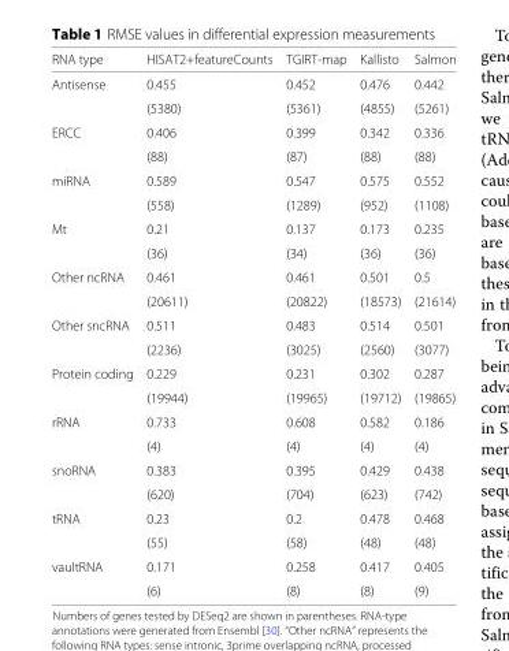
<table><thead><tr><td>RNA type</td><td>HISAT2+featureCounts</td><td>TGIRT-map</td><td>Kallisto</td><td>Salmon</td></tr></thead><tbody><tr><td rowspan="2">Antisense</td><td>0.455</td><td>0.452</td><td>0.476</td><td>0.442</td></tr><tr><td>(5380)</td><td>(5361)</td><td>(4855)</td><td>(5261)</td></tr><tr><td rowspan="2">ERCC</td><td>0.406</td><td>0.399</td><td>0.342</td><td>0.336</td></tr><tr><td>(88)</td><td>(87)</td><td>(88)</td><td>(88)</td></tr><tr><td rowspan="2">miRNA</td><td>0.589</td><td>0.547</td><td>0.575</td><td>0.552</td></tr><tr><td>(558)</td><td>(1289)</td><td>(952)</td><td>(1108)</td></tr><tr><td rowspan="2">Mt</td><td>0.21</td><td>0.137</td><td>0.173</td><td>0.235</td></tr><tr><td>(36)</td><td>(34)</td><td>(36)</td><td>(36)</td></tr><tr><td rowspan="2">Other ncRNA</td><td>0.461</td><td>0.461</td><td>0.501</td><td>0.5</td></tr><tr><td>(20611)</td><td>(20822)</td><td>(18573)</td><td>(21614)</td></tr><tr><td rowspan="2">Other sncRNA</td><td>0.511</td><td>0.483</td><td>0.514</td><td>0.501</td></tr><tr><td>(2236)</td><td>(3025)</td><td>(2560)</td><td>(3077)</td></tr><tr><td rowspan="2">Protein coding</td><td>0.229</td><td>0.231</td><td>0.302</td><td>0.287</td></tr><tr><td>(19944)</td><td>(19965)</td><td>(19712)</td><td>(19865)</td></tr><tr><td rowspan="2">rRNA</td><td>0.733</td><td>0.608</td><td>0.582</td><td>0.186</td></tr><tr><td>(4)</td><td>(4)</td><td>(4)</td><td>(4)</td></tr><tr><td rowspan="2">snoRNA</td><td>0.383</td><td>0.395</td><td>0.429</td><td>0.438</td></tr><tr><td>(620)</td><td>(704)</td><td>(623)</td><td>(742)</td></tr><tr><td rowspan="2">tRNA</td><td>0.23</td><td>0.2</td><td>0.478</td><td>0.468</td></tr><tr><td>(55)</td><td>(58)</td><td>(48)</td><td>(48)</td></tr><tr><td rowspan="2">vaultRNA</td><td>0.171</td><td>0.258</td><td>0.417</td><td>0.405</td></tr><tr><td>(6)</td><td>(8)</td><td>(8)</td><td>(9)</td></tr></tbody></table>